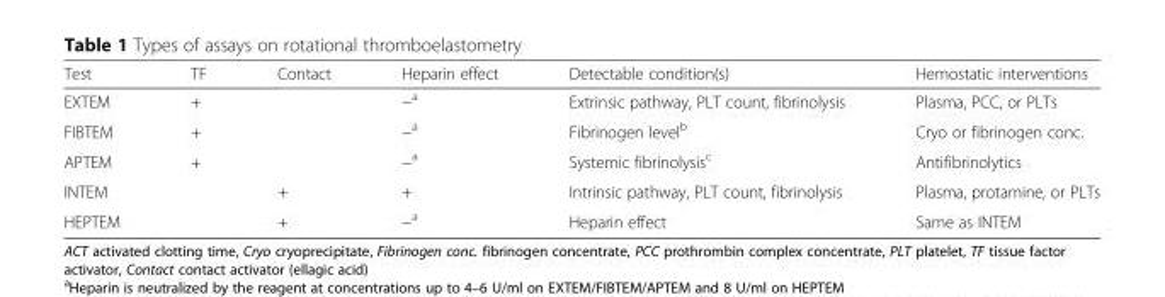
<table><thead><tr><td>Test</td><td>TF</td><td>Contact</td><td>Heparin effect</td><td>Detectable condition(s)</td><td>Hemostatic interventions</td></tr></thead><tbody><tr><td>EXTEM</td><td>+</td><td></td><td>−<sup>a</sup></td><td>Extrinsic pathway, PLT count, fibrinolysis</td><td>Plasma, PCC, or PLTs</td></tr><tr><td>FIBTEM</td><td>+</td><td></td><td>−<sup>a</sup></td><td>Fibrinogen level<sup>b</sup></td><td>Cryo or fibrinogen conc.</td></tr><tr><td>APTEM</td><td>+</td><td></td><td>−<sup>a</sup></td><td>Systemic fibrinolysis<sup>c</sup></td><td>Antifibrinolytics</td></tr><tr><td>INTEM</td><td></td><td>+</td><td>+</td><td>Intrinsic pathway, PLT count, fibrinolysis</td><td>Plasma, protamine, or PLTs</td></tr><tr><td>HEPTEM</td><td></td><td>+</td><td>−<sup>a</sup></td><td>Heparin effect</td><td>Same as INTEM</td></tr></tbody></table>